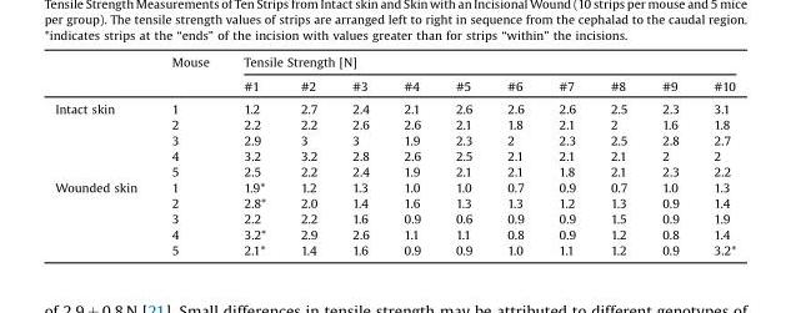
<table><thead><tr><td rowspan="2"></td><td rowspan="2">Mouse</td><td colspan="10">Tensile Strength [N]</td></tr><tr><td>#1</td><td>#2</td><td>#3</td><td>#4</td><td>#5</td><td>#6</td><td>#7</td><td>#8</td><td>#9</td><td>#10</td></tr></thead><tbody><tr><td rowspan="5">Intact skin</td><td>1</td><td>1.2</td><td>2.7</td><td>2.4</td><td>2.1</td><td>2.6</td><td>2.6</td><td>2.6</td><td>2.5</td><td>2.3</td><td>3.1</td></tr><tr><td>2</td><td>2.2</td><td>2.2</td><td>2.6</td><td>2.6</td><td>2.1</td><td>1.8</td><td>2.1</td><td>2</td><td>1.6</td><td>1.8</td></tr><tr><td>3</td><td>2.9</td><td>3</td><td>3</td><td>1.9</td><td>2.3</td><td>2</td><td>2.3</td><td>2.5</td><td>2.8</td><td>2.7</td></tr><tr><td>4</td><td>3.2</td><td>3.2</td><td>2.8</td><td>2.6</td><td>2.5</td><td>2.1</td><td>2.1</td><td>2.1</td><td>2</td><td>2</td></tr><tr><td>5</td><td>2.5</td><td>2.2</td><td>2.4</td><td>1.9</td><td>2.1</td><td>2.1</td><td>1.8</td><td>2.1</td><td>2.3</td><td>2.2</td></tr><tr><td rowspan="5">Wounded skin</td><td>1</td><td>1.9*</td><td>1.2</td><td>1.3</td><td>1.0</td><td>1.0</td><td>0.7</td><td>0.9</td><td>0.7</td><td>1.0</td><td>1.3</td></tr><tr><td>2</td><td>2.8*</td><td>2.0</td><td>1.4</td><td>1.6</td><td>1.3</td><td>1.3</td><td>1.2</td><td>1.3</td><td>0.9</td><td>1.4</td></tr><tr><td>3</td><td>2.2</td><td>2.2</td><td>1.6</td><td>0.9</td><td>0.6</td><td>0.9</td><td>0.9</td><td>1.5</td><td>0.9</td><td>1.9</td></tr><tr><td>4</td><td>3.2*</td><td>2.9</td><td>2.6</td><td>1.1</td><td>1.1</td><td>0.8</td><td>0.9</td><td>1.2</td><td>0.8</td><td>1.4</td></tr><tr><td>5</td><td>2.1*</td><td>1.4</td><td>1.6</td><td>0.9</td><td>0.9</td><td>1.0</td><td>1.1</td><td>1.2</td><td>0.9</td><td>3.2*</td></tr></tbody></table>